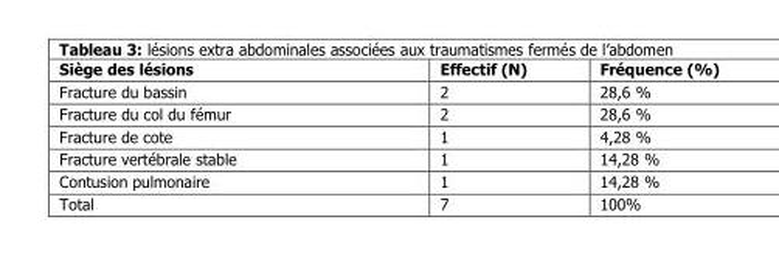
<table><thead><tr><td>Siège des lésions</td><td>Effectif (N)</td><td>Fréquence (%)</td></tr></thead><tbody><tr><td>Fracture du bassin</td><td>2</td><td>28,6 %</td></tr><tr><td>Fracture du col du fémur</td><td>2</td><td>28,6 %</td></tr><tr><td>Fracture de cote</td><td>1</td><td>4,28 %</td></tr><tr><td>Fracture vertébrale stable</td><td>1</td><td>14,28 %</td></tr><tr><td>Contusion pulmonaire</td><td>1</td><td>14,28 %</td></tr><tr><td>Total</td><td>7</td><td>100%</td></tr></tbody></table>